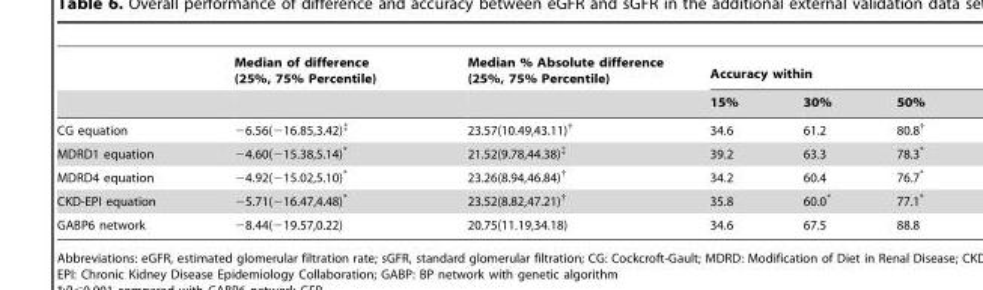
<table><thead><tr><td rowspan="2"></td><td rowspan="2">Median of difference (25%, 75% Percentile)</td><td rowspan="2">Median % Absolute difference (25%, 75% Percentile)</td><td colspan="3">Accuracy within</td></tr><tr><td>15%</td><td>30%</td><td>50%</td></tr></thead><tbody><tr><td>CG equation</td><td>−6.56(−16.85,3.42)‡</td><td>23.57(10.49,43.11)†</td><td>34.6</td><td>61.2</td><td>80.8†</td></tr><tr><td>MDRD1 equation</td><td>−4.60(−15.38,5.14)*</td><td>21.52(9.78,44.38)‡</td><td>39.2</td><td>63.3</td><td>78.3*</td></tr><tr><td>MDRD4 equation</td><td>−4.92(−15.02,5.10)*</td><td>23.26(8.94,46.84)†</td><td>34.2</td><td>60.4</td><td>76.7*</td></tr><tr><td>CKD-EPI equation</td><td>−5.71(−16.47,4.48)*</td><td>23.52(8.82,47.21)†</td><td>35.8</td><td>60.0*</td><td>77.1*</td></tr><tr><td>GABP6 network</td><td>−8.44(−19.57,0.22)</td><td>20.75(11.19,34.18)</td><td>34.6</td><td>67.5</td><td>88.8</td></tr></tbody></table>